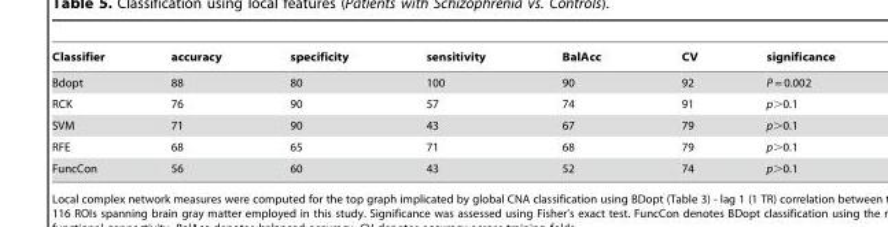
<table><thead><tr><td>Classifier</td><td>accuracy</td><td>specificity</td><td>sensitivity</td><td>BalAcc</td><td>CV</td><td>significance</td></tr></thead><tbody><tr><td>Bdopt</td><td>88</td><td>80</td><td>100</td><td>90</td><td>92</td><td>P = 0.002</td></tr><tr><td>RCK</td><td>76</td><td>90</td><td>57</td><td>74</td><td>91</td><td>p&gt;0.1</td></tr><tr><td>SVM</td><td>71</td><td>90</td><td>43</td><td>67</td><td>79</td><td>p&gt;0.1</td></tr><tr><td>RFE</td><td>68</td><td>65</td><td>71</td><td>68</td><td>79</td><td>p&gt;0.1</td></tr><tr><td>FuncCon</td><td>56</td><td>60</td><td>43</td><td>52</td><td>74</td><td>p&gt;0.1</td></tr></tbody></table>